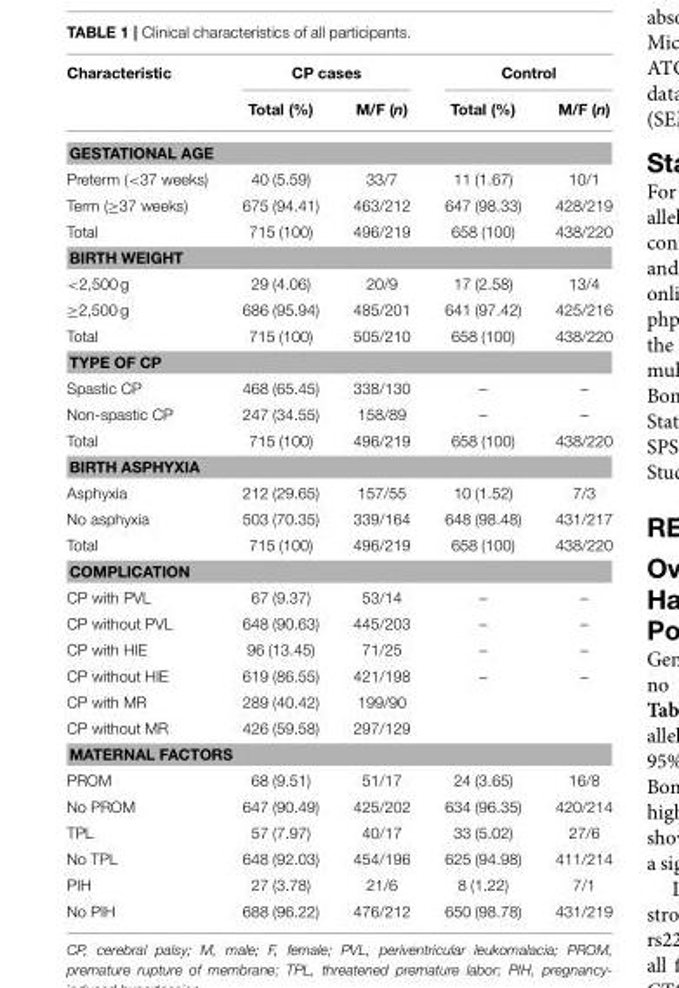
<table><thead><tr><td rowspan="2">Characteristic</td><td colspan="2">CP cases</td><td colspan="2">Control</td></tr><tr><td>Total (%)</td><td>M/F (n)</td><td>Total (%)</td><td>M/F (n)</td></tr></thead><tbody><tr><td colspan="5">GESTATIONAL AGE</td></tr><tr><td>Preterm (&lt;37 weeks)</td><td>40 (5.59)</td><td>33/7</td><td>11 (1.67)</td><td>10/1</td></tr><tr><td>Term (≥37 weeks)</td><td>675 (94.41)</td><td>463/212</td><td>647 (98.33)</td><td>428/219</td></tr><tr><td>Total</td><td>715 (100)</td><td>496/219</td><td>658 (100)</td><td>438/220</td></tr><tr><td colspan="5">BIRTH WEIGHT</td></tr><tr><td>&lt;2,500 g</td><td>29 (4.06)</td><td>20/9</td><td>17 (2.58)</td><td>13/4</td></tr><tr><td>≥2,500 g</td><td>686 (95.94)</td><td>485/201</td><td>641 (97.42)</td><td>425/216</td></tr><tr><td>Total</td><td>715 (100)</td><td>505/210</td><td>658 (100)</td><td>438/220</td></tr><tr><td colspan="5">TYPE OF CP</td></tr><tr><td>Spastic CP</td><td>468 (65.45)</td><td>338/130</td><td>–</td><td>–</td></tr><tr><td>Non-spastic CP</td><td>247 (34.55)</td><td>158/89</td><td>–</td><td>–</td></tr><tr><td>Total</td><td>715 (100)</td><td>496/219</td><td>658 (100)</td><td>438/220</td></tr><tr><td colspan="5">BIRTH ASPHYXIA</td></tr><tr><td>Asphyxia</td><td>212 (29.65)</td><td>157/55</td><td>10 (1.52)</td><td>7/3</td></tr><tr><td>No asphyxia</td><td>503 (70.35)</td><td>339/164</td><td>648 (98.48)</td><td>431/217</td></tr><tr><td>Total</td><td>715 (100)</td><td>496/219</td><td>658 (100)</td><td>438/220</td></tr><tr><td colspan="5">COMPLICATION</td></tr><tr><td>CP with PVL</td><td>67 (9.37)</td><td>53/14</td><td>–</td><td>–</td></tr><tr><td>CP without PVL</td><td>648 (90.63)</td><td>445/203</td><td>–</td><td>–</td></tr><tr><td>CP with HIE</td><td>96 (13.45)</td><td>71/25</td><td>–</td><td>–</td></tr><tr><td>CP without HIE</td><td>619 (86.55)</td><td>421/198</td><td>–</td><td>–</td></tr><tr><td>CP with MR</td><td>289 (40.42)</td><td>199/90</td><td></td><td></td></tr><tr><td>CP without MR</td><td>426 (59.58)</td><td>297/129</td><td></td><td></td></tr><tr><td colspan="5">MATERNAL FACTORS</td></tr><tr><td>PROM</td><td>68 (9.51)</td><td>51/17</td><td>24 (3.65)</td><td>16/8</td></tr><tr><td>No PROM</td><td>647 (90.49)</td><td>425/202</td><td>634 (96.35)</td><td>420/214</td></tr><tr><td>TPL</td><td>57 (7.97)</td><td>40/17</td><td>33 (5.02)</td><td>27/6</td></tr><tr><td>No TPL</td><td>648 (92.03)</td><td>454/196</td><td>625 (94.98)</td><td>411/214</td></tr><tr><td>PIH</td><td>27 (3.78)</td><td>21/6</td><td>8 (1.22)</td><td>7/1</td></tr><tr><td>No PIH</td><td>688 (96.22)</td><td>476/212</td><td>650 (98.78)</td><td>431/219</td></tr></tbody></table>